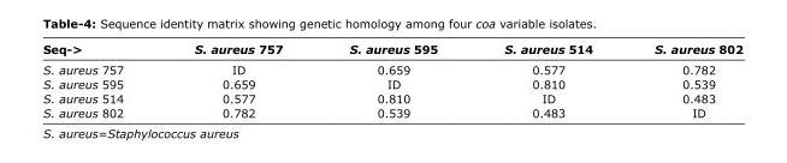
<table><thead><tr><td>Seq-&gt;</td><td>S. aureus 757</td><td>S. aureus 595</td><td>S. aureus 514</td><td>S. aureus 802</td></tr></thead><tbody><tr><td>S. aureus 757</td><td>ID</td><td>0.659</td><td>0.577</td><td>0.782</td></tr><tr><td>S. aureus 595</td><td>0.659</td><td>ID</td><td>0.810</td><td>0.539</td></tr><tr><td>S. aureus 514</td><td>0.577</td><td>0.810</td><td>ID</td><td>0.483</td></tr><tr><td>S. aureus 802</td><td>0.782</td><td>0.539</td><td>0.483</td><td>ID</td></tr></tbody></table>